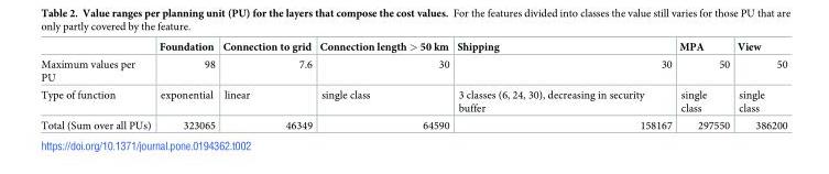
<table><thead><tr><td></td><td>Foundation</td><td>Connection to grid</td><td>Connection length &gt; 50 km</td><td>Shipping</td><td>MPA</td><td>View</td></tr></thead><tbody><tr><td>Maximum values per PU</td><td>98</td><td>7.6</td><td>30</td><td>30</td><td>50</td><td>50</td></tr><tr><td>Type of function</td><td>exponential</td><td>linear</td><td>single class</td><td>3 classes (6, 24, 30), decreasing in security buffer</td><td>single class</td><td>single class</td></tr><tr><td>Total (Sum over all PUs)</td><td>323065</td><td>46349</td><td>64590</td><td>158167</td><td>297550</td><td>386200</td></tr></tbody></table>